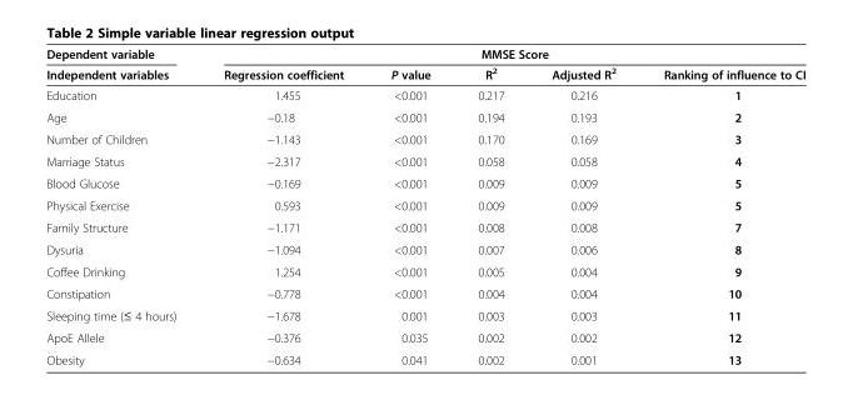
<table><thead><tr><td rowspan="2">Dependent variable Independent variables</td><td colspan="5">MMSE Score</td></tr><tr><td>Regression coefficient</td><td>P value</td><td>R<sup>2</sup></td><td>Adjusted R<sup>2</sup></td><td>Ranking of influence to CI</td></tr></thead><tbody><tr><td>Education</td><td>1.455</td><td>&lt;0.001</td><td>0.217</td><td>0.216</td><td>1</td></tr><tr><td>Age</td><td>−0.18</td><td>&lt;0.001</td><td>0.194</td><td>0.193</td><td>2</td></tr><tr><td>Number of Children</td><td>−1.143</td><td>&lt;0.001</td><td>0.170</td><td>0.169</td><td>3</td></tr><tr><td>Marriage Status</td><td>−2.317</td><td>&lt;0.001</td><td>0.058</td><td>0.058</td><td>4</td></tr><tr><td>Blood Glucose</td><td>−0.169</td><td>&lt;0.001</td><td>0.009</td><td>0.009</td><td>5</td></tr><tr><td>Physical Exercise</td><td>0.593</td><td>&lt;0.001</td><td>0.009</td><td>0.009</td><td>5</td></tr><tr><td>Family Structure</td><td>−1.171</td><td>&lt;0.001</td><td>0.008</td><td>0.008</td><td>7</td></tr><tr><td>Dysuria</td><td>−1.094</td><td>&lt;0.001</td><td>0.007</td><td>0.006</td><td>8</td></tr><tr><td>Coffee Drinking</td><td>1.254</td><td>&lt;0.001</td><td>0.005</td><td>0.004</td><td>9</td></tr><tr><td>Constipation</td><td>−0.778</td><td>&lt;0.001</td><td>0.004</td><td>0.004</td><td>10</td></tr><tr><td>Sleeping time (≤ 4 hours)</td><td>−1.678</td><td>0.001</td><td>0.003</td><td>0.003</td><td>11</td></tr><tr><td>ApoE Allele</td><td>−0.376</td><td>0.035</td><td>0.002</td><td>0.002</td><td>12</td></tr><tr><td>Obesity</td><td>−0.634</td><td>0.041</td><td>0.002</td><td>0.001</td><td>13</td></tr></tbody></table>